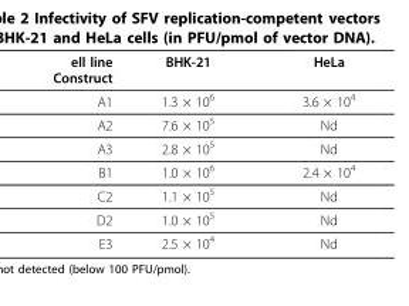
<table><thead><tr><td>ell line Construct</td><td>BHK-21</td><td>HeLa</td></tr></thead><tbody><tr><td>A1</td><td>1.3 × 10<sup>6</sup></td><td>3.6 × 10<sup>4</sup></td></tr><tr><td>A2</td><td>7.6 × 10<sup>5</sup></td><td>Nd</td></tr><tr><td>A3</td><td>2.8 × 10<sup>5</sup></td><td>Nd</td></tr><tr><td>B1</td><td>1.0 × 10<sup>6</sup></td><td>2.4 × 10<sup>4</sup></td></tr><tr><td>C2</td><td>1.1 × 10<sup>5</sup></td><td>Nd</td></tr><tr><td>D2</td><td>1.0 × 10<sup>5</sup></td><td>Nd</td></tr><tr><td>E3</td><td>2.5 × 10<sup>4</sup></td><td>Nd</td></tr></tbody></table>